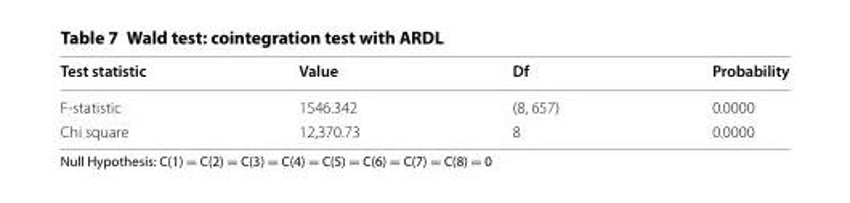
<table><thead><tr><td>Test statistic</td><td>Value</td><td>Df</td><td>Probability</td></tr></thead><tbody><tr><td>F-statistic</td><td>1546.342</td><td>(8, 657)</td><td>0.0000</td></tr><tr><td>Chi square</td><td>12,370.73</td><td>8</td><td>0.0000</td></tr></tbody></table>